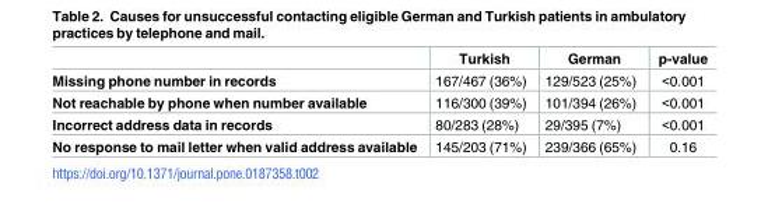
<table><thead><tr><td></td><td>Turkish</td><td>German</td><td>p-value</td></tr></thead><tbody><tr><td>Missing phone number in records</td><td>167/467 (36%)</td><td>129/523 (25%)</td><td>&lt;0.001</td></tr><tr><td>Not reachable by phone when number available</td><td>116/300 (39%)</td><td>101/394 (26%)</td><td>&lt;0.001</td></tr><tr><td>Incorrect address data in records</td><td>80/283 (28%)</td><td>29/395 (7%)</td><td>&lt;0.001</td></tr><tr><td>No response to mail letter when valid address available</td><td>145/203 (71%)</td><td>239/366 (65%)</td><td>0.16</td></tr></tbody></table>